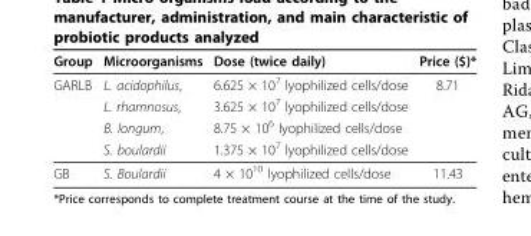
<table><thead><tr><td>Group</td><td>Microorganisms</td><td>Dose (twice daily)</td><td>Price ($)*</td></tr></thead><tbody><tr><td rowspan="4">GARLB</td><td>L. acidophilus,</td><td>6.625 × 10<sup>7</sup> lyophilized cells/dose</td><td>8.71</td></tr><tr><td>L. rhamnosus,</td><td>3.625 × 10<sup>7</sup> lyophilized cells/dose</td><td></td></tr><tr><td>B. longum,</td><td>8.75 × 10<sup>6</sup> lyophilized cells/dose</td><td></td></tr><tr><td>S. boulardii</td><td>1.375 × 10<sup>7</sup> lyophilized cells/dose</td><td></td></tr><tr><td>GB</td><td>S. Boulardii</td><td>4 × 10<sup>10</sup> lyophilized cells/dose</td><td>11.43</td></tr></tbody></table>